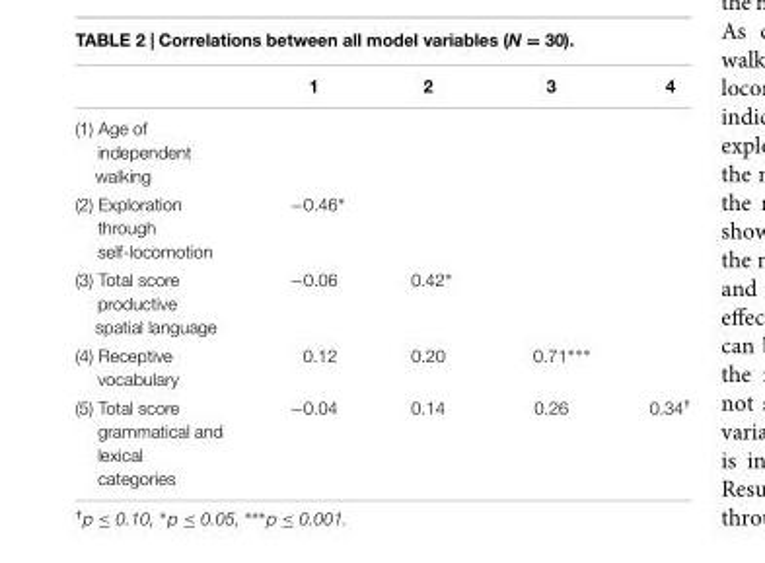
<table><thead><tr><td></td><td>1</td><td>2</td><td>3</td><td>4</td></tr></thead><tbody><tr><td colspan="5">(1) Age of independent walking</td></tr><tr><td>(2) Exploration through self-locomotion</td><td>−0.46∗</td><td></td><td></td><td></td></tr><tr><td>(3) Total score productive spatial language</td><td>−0.06</td><td>0.42∗</td><td></td><td></td></tr><tr><td>(4) Receptive vocabulary</td><td>0.12</td><td>0.20</td><td>0.71∗∗∗</td><td></td></tr><tr><td>(5) Total score grammatical and lexical categories</td><td>−0.04</td><td>0.14</td><td>0.26</td><td>0.34<sup>†</sup></td></tr></tbody></table>